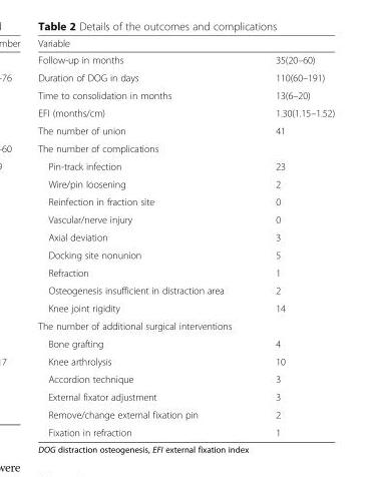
<table><thead><tr><td colspan="2">Variable</td></tr><tr><td>Follow-up in months</td><td>35(20–60)</td></tr></thead><tbody><tr><td>Duration of DOG in days</td><td>110(60–191)</td></tr><tr><td>Time to consolidation in months</td><td>13(6–20)</td></tr><tr><td>EFI (months/cm)</td><td>1.30(1.15–1.52)</td></tr><tr><td>The number of union</td><td>41</td></tr><tr><td colspan="2">The number of complications</td></tr><tr><td>Pin-track infection</td><td>23</td></tr><tr><td>Wire/pin loosening</td><td>2</td></tr><tr><td>Reinfection in fraction site</td><td>0</td></tr><tr><td>Vascular/nerve injury</td><td>0</td></tr><tr><td>Axial deviation</td><td>3</td></tr><tr><td>Docking site nonunion</td><td>5</td></tr><tr><td>Refraction</td><td>1</td></tr><tr><td>Osteogenesis insufficient in distraction area</td><td>2</td></tr><tr><td>Knee joint rigidity</td><td>14</td></tr><tr><td colspan="2">The number of additional surgical interventions</td></tr><tr><td>Bone grafting</td><td>4</td></tr><tr><td>Knee arthrolysis</td><td>10</td></tr><tr><td>Accordion technique</td><td>3</td></tr><tr><td>External fixator adjustment</td><td>3</td></tr><tr><td>Remove/change external fixation pin</td><td>2</td></tr><tr><td>Fixation in refraction</td><td>1</td></tr></tbody></table>